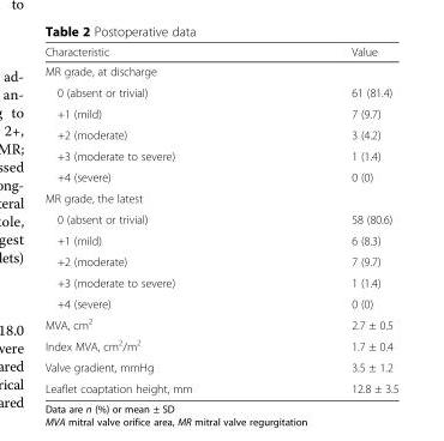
<table><thead><tr><td>Characteristic</td><td>Value</td></tr></thead><tbody><tr><td colspan="2">MR grade, at discharge</td></tr><tr><td>0 (absent or trivial)</td><td>61 (81.4)</td></tr><tr><td>+1 (mild)</td><td>7 (9.7)</td></tr><tr><td>+2 (moderate)</td><td>3 (4.2)</td></tr><tr><td>+3 (moderate to severe)</td><td>1 (1.4)</td></tr><tr><td>+4 (severe)</td><td>0 (0)</td></tr><tr><td colspan="2">MR grade, the latest</td></tr><tr><td>0 (absent or trivial)</td><td>58 (80.6)</td></tr><tr><td>+1 (mild)</td><td>6 (8.3)</td></tr><tr><td>+2 (moderate)</td><td>7 (9.7)</td></tr><tr><td>+3 (moderate to severe)</td><td>1 (1.4)</td></tr><tr><td>+4 (severe)</td><td>0 (0)</td></tr><tr><td>MVA, cm<sup>2</sup></td><td>2.7 ± 0.5</td></tr><tr><td>Index MVA, cm<sup>2</sup>/m<sup>2</sup></td><td>1.7 ± 0.4</td></tr><tr><td>Valve gradient, mmHg</td><td>3.5 ± 1.2</td></tr><tr><td>Leaflet coaptation height, mm</td><td>12.8 ± 3.5</td></tr></tbody></table>